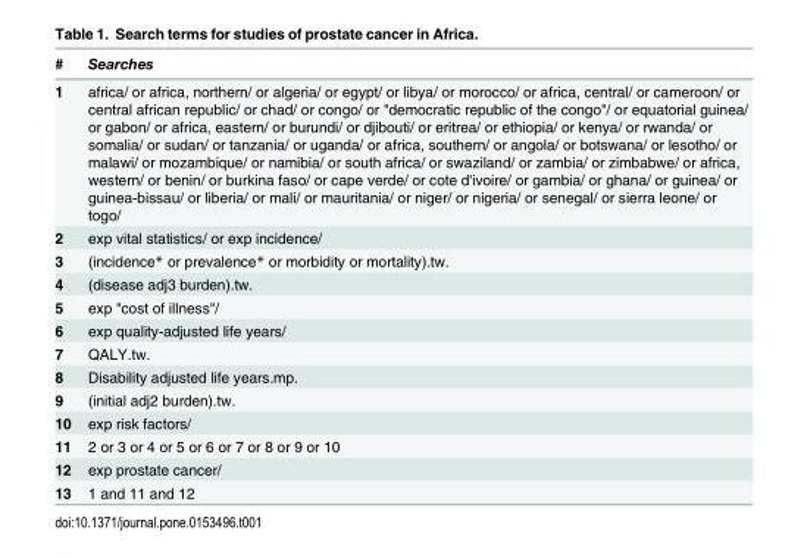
<table><thead><tr><td>#</td><td>Searches</td></tr></thead><tbody><tr><td>1</td><td>africa/ or africa, northern/ or algeria/ or egypt/ or libya/ or morocco/ or africa, central/ or cameroon/ or central african republic/ or chad/ or congo/ or &quot;democratic republic of the congo&quot;/ or equatorial guinea/ or gabon/ or africa, eastern/ or burundi/ or djibouti/ or eritrea/ or ethiopia/ or kenya/ or rwanda/ or somalia/ or sudan/ or tanzania/ or uganda/ or africa, southern/ or angola/ or botswana/ or lesotho/ or malawi/ or mozambique/ or namibia/ or south africa/ or swaziland/ or zambia/ or zimbabwe/ or africa, western/ or benin/ or burkina faso/ or cape verde/ or cote d&#x27;ivoire/ or gambia/ or ghana/ or guinea/ or guinea-bissau/ or liberia/ or mali/ or mauritania/ or niger/ or nigeria/ or senegal/ or sierra leone/ or togo/</td></tr><tr><td>2</td><td>exp vital statistics/ or exp incidence/</td></tr><tr><td>3</td><td>(incidence* or prevalence* or morbidity or mortality).tw.</td></tr><tr><td>4</td><td>(disease adj3 burden).tw.</td></tr><tr><td>5</td><td>exp &quot;cost of illness&quot;/</td></tr><tr><td>6</td><td>exp quality-adjusted life years/</td></tr><tr><td>7</td><td>QALY.tw.</td></tr><tr><td>8</td><td>Disability adjusted life years.mp.</td></tr><tr><td>9</td><td>(initial adj2 burden).tw.</td></tr><tr><td>10</td><td>exp risk factors/</td></tr><tr><td>11</td><td>2 or 3 or 4 or 5 or 6 or 7 or 8 or 9 or 10</td></tr><tr><td>12</td><td>exp prostate cancer/</td></tr><tr><td>13</td><td>1 and 11 and 12</td></tr></tbody></table>